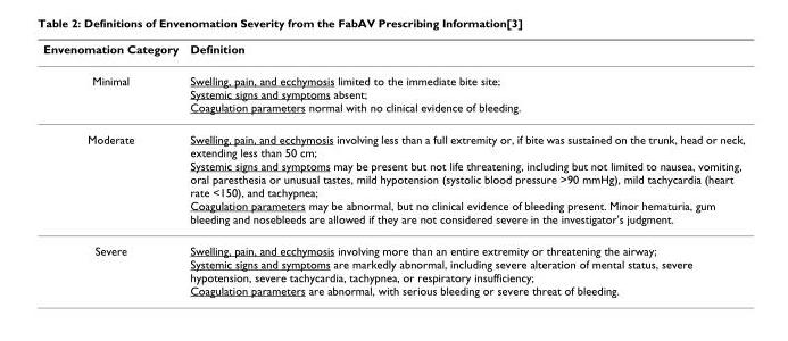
<table><thead><tr><td>Envenomation Category</td><td>Definition</td></tr></thead><tbody><tr><td>Minimal</td><td>Swelling, pain, and ecchymosis limited to the immediate bite site; Systemic signs and symptoms absent; Coagulation parameters normal with no clinical evidence of bleeding.</td></tr><tr><td>Moderate</td><td>Swelling, pain, and ecchymosis involving less than a full extremity or, if bite was sustained on the trunk, head or neck, extending less than 50 cm; Systemic signs and symptoms may be present but not life threatening, including but not limited to nausea, vomiting, oral paresthesia or unusual tastes, mild hypotension (systolic blood pressure &gt;90 mmHg), mild tachycardia (heart rate &lt;150), and tachypnea; Coagulation parameters may be abnormal, but no clinical evidence of bleeding present. Minor hematuria, gum bleeding and nosebleeds are allowed if they are not considered severe in the investigator&#x27;s judgment.</td></tr><tr><td>Severe</td><td>Swelling, pain, and ecchymosis involving more than an entire extremity or threatening the airway; Systemic signs and symptoms are markedly abnormal, including severe alteration of mental status, severe hypotension, severe tachycardia, tachypnea, or respiratory insufficiency; Coagulation parameters are abnormal, with serious bleeding or severe threat of bleeding.</td></tr></tbody></table>